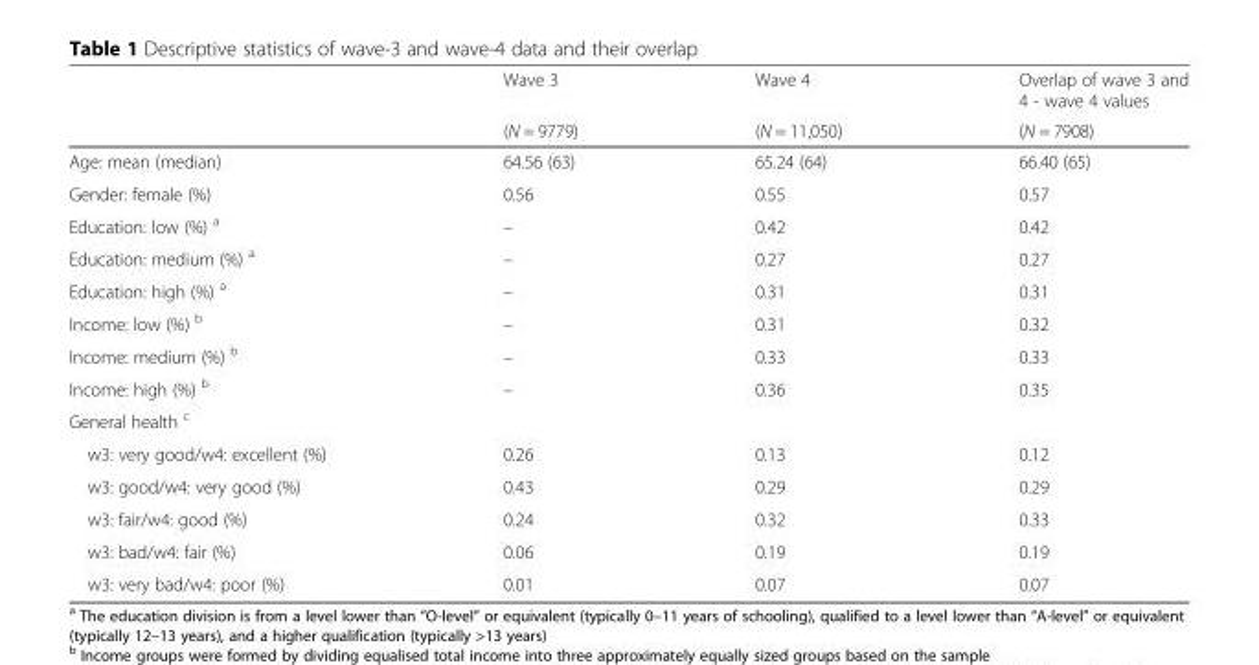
<table><thead><tr><td rowspan="2"></td><td rowspan="2">Wave 3 (N = 9779)</td><td rowspan="2">Wave 4 (N = 11,050)</td><td rowspan="2">Overlap of wave 3 and 4 - wave 4 values (N = 7908)</td></tr><tr></tr></thead><tbody><tr><td>Age: mean (median)</td><td>64.56 (63)</td><td>65.24 (64)</td><td>66.40 (65)</td></tr><tr><td>Gender: female (%)</td><td>0.56</td><td>0.55</td><td>0.57</td></tr><tr><td>Education: low (%) <sup>a</sup></td><td>–</td><td>0.42</td><td>0.42</td></tr><tr><td>Education: medium (%) <sup>a</sup></td><td>–</td><td>0.27</td><td>0.27</td></tr><tr><td>Education: high (%) <sup>a</sup></td><td>–</td><td>0.31</td><td>0.31</td></tr><tr><td>Income: low (%) <sup>b</sup></td><td>–</td><td>0.31</td><td>0.32</td></tr><tr><td>Income: medium (%) <sup>b</sup></td><td>–</td><td>0.33</td><td>0.33</td></tr><tr><td>Income: high (%) <sup>b</sup></td><td>–</td><td>0.36</td><td>0.35</td></tr><tr><td colspan="4">General health <sup>c</sup></td></tr><tr><td>w3: very good/w4: excellent (%)</td><td>0.26</td><td>0.13</td><td>0.12</td></tr><tr><td>w3: good/w4: very good (%)</td><td>0.43</td><td>0.29</td><td>0.29</td></tr><tr><td>w3: fair/w4: good (%)</td><td>0.24</td><td>0.32</td><td>0.33</td></tr><tr><td>w3: bad/w4: fair (%)</td><td>0.06</td><td>0.19</td><td>0.19</td></tr><tr><td>w3: very bad/w4: poor (%)</td><td>0.01</td><td>0.07</td><td>0.07</td></tr></tbody></table>